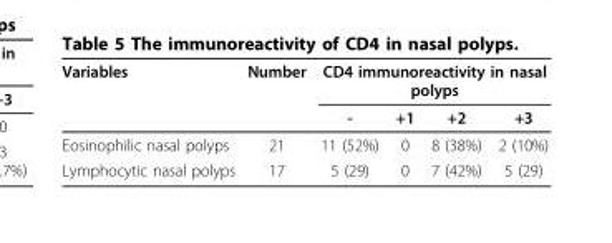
<table><thead><tr><td rowspan="2">Variables</td><td rowspan="2">Number</td><td colspan="4">CD4 immunoreactivity in nasal polyps</td></tr><tr><td>-</td><td>+1</td><td>+2</td><td>+3</td></tr></thead><tbody><tr><td>Eosinophilic nasal polyps</td><td>21</td><td>11 (52%)</td><td>0</td><td>8 (38%)</td><td>2 (10%)</td></tr><tr><td>Lymphocytic nasal polyps</td><td>17</td><td>5 (29)</td><td>0</td><td>7 (42%)</td><td>5 (29)</td></tr></tbody></table>